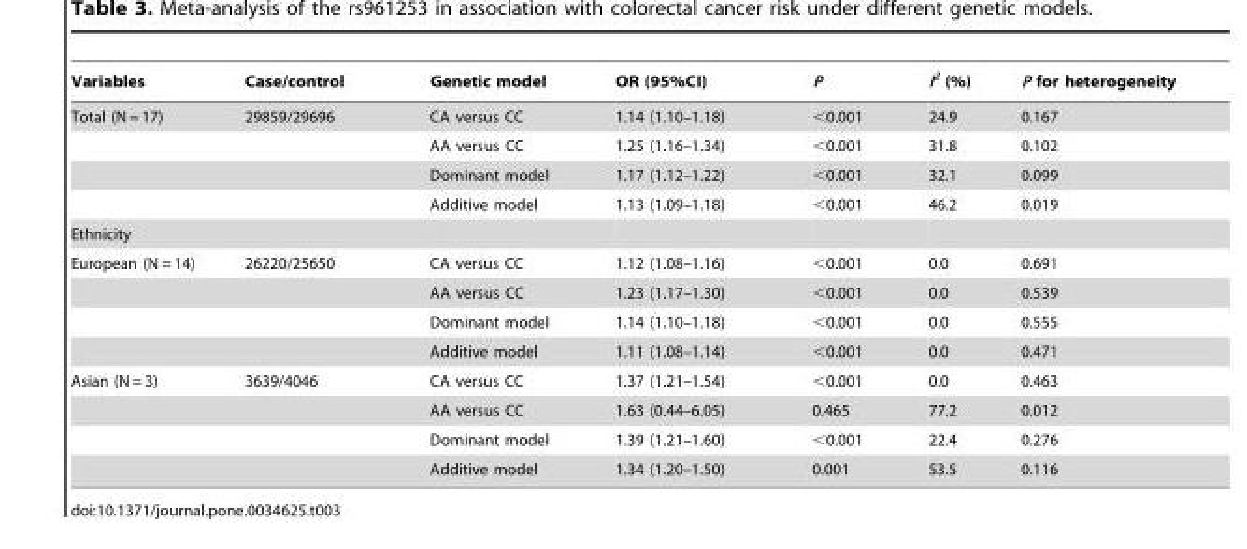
<table><thead><tr><td>Variables</td><td>Case/control</td><td>Genetic model</td><td>OR (95%CI)</td><td>P</td><td>I<sup>2</sup> (%)</td><td>P for heterogeneity</td></tr></thead><tbody><tr><td rowspan="4">Total (N = 17)</td><td>29859/29696</td><td>CA versus CC</td><td>1.14 (1.10–1.18)</td><td>&lt;0.001</td><td>24.9</td><td>0.167</td></tr><tr><td></td><td>AA versus CC</td><td>1.25 (1.16–1.34)</td><td>&lt;0.001</td><td>31.8</td><td>0.102</td></tr><tr><td></td><td>Dominant model</td><td>1.17 (1.12–1.22)</td><td>&lt;0.001</td><td>32.1</td><td>0.099</td></tr><tr><td></td><td>Additive model</td><td>1.13 (1.09–1.18)</td><td>&lt;0.001</td><td>46.2</td><td>0.019</td></tr><tr><td colspan="7">Ethnicity</td></tr><tr><td rowspan="4">European (N = 14)</td><td>26220/25650</td><td>CA versus CC</td><td>1.12 (1.08–1.16)</td><td>&lt;0.001</td><td>0.0</td><td>0.691</td></tr><tr><td></td><td>AA versus CC</td><td>1.23 (1.17–1.30)</td><td>&lt;0.001</td><td>0.0</td><td>0.539</td></tr><tr><td></td><td>Dominant model</td><td>1.14 (1.10–1.18)</td><td>&lt;0.001</td><td>0.0</td><td>0.555</td></tr><tr><td></td><td>Additive model</td><td>1.11 (1.08–1.14)</td><td>&lt;0.001</td><td>0.0</td><td>0.471</td></tr><tr><td rowspan="4">Asian (N = 3)</td><td>3639/4046</td><td>CA versus CC</td><td>1.37 (1.21–1.54)</td><td>&lt;0.001</td><td>0.0</td><td>0.463</td></tr><tr><td></td><td>AA versus CC</td><td>1.63 (0.44–6.05)</td><td>0.465</td><td>77.2</td><td>0.012</td></tr><tr><td></td><td>Dominant model</td><td>1.39 (1.21–1.60)</td><td>&lt;0.001</td><td>22.4</td><td>0.276</td></tr><tr><td></td><td>Additive model</td><td>1.34 (1.20–1.50)</td><td>0.001</td><td>53.5</td><td>0.116</td></tr></tbody></table>